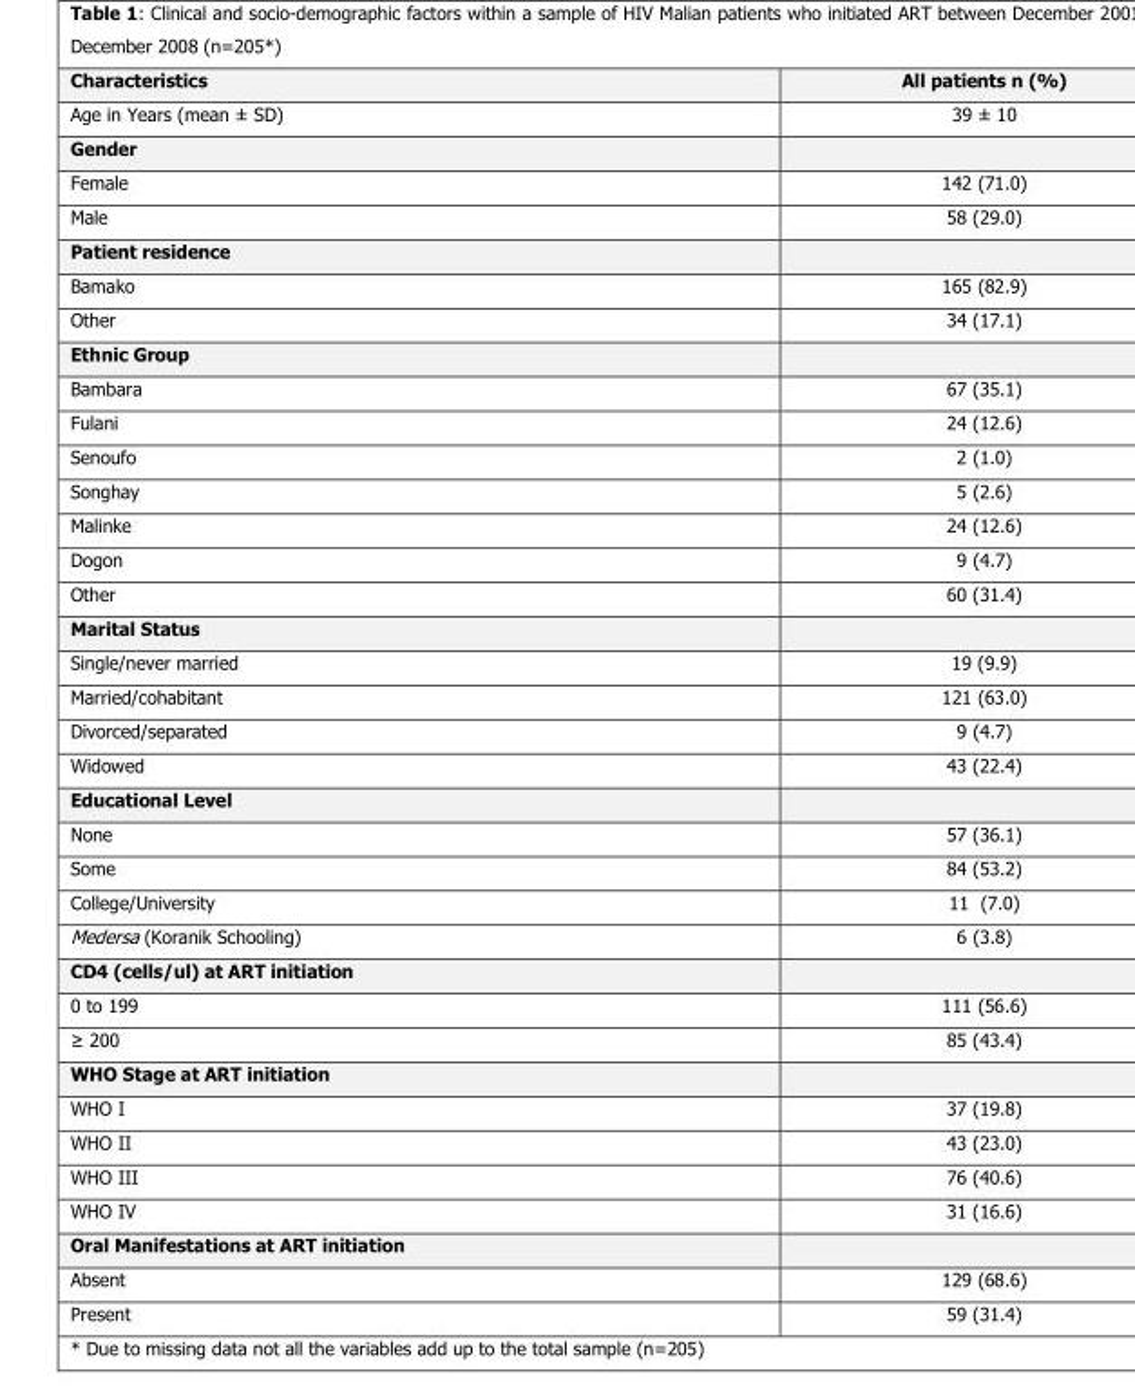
<table><thead><tr><td>Characteristics</td><td>All patients n (%)</td></tr></thead><tbody><tr><td>Age in Years (mean ± SD)</td><td>39 ± 10</td></tr><tr><td colspan="2">Gender</td></tr><tr><td>Female</td><td>142 (71.0)</td></tr><tr><td>Male</td><td>58 (29.0)</td></tr><tr><td colspan="2">Patient residence</td></tr><tr><td>Bamako</td><td>165 (82.9)</td></tr><tr><td>Other</td><td>34 (17.1)</td></tr><tr><td colspan="2">Ethnic Group</td></tr><tr><td>Bambara</td><td>67 (35.1)</td></tr><tr><td>Fulani</td><td>24 (12.6)</td></tr><tr><td>Senoufo</td><td>2 (1.0)</td></tr><tr><td>Songhay</td><td>5 (2.6)</td></tr><tr><td>Malinke</td><td>24 (12.6)</td></tr><tr><td>Dogon</td><td>9 (4.7)</td></tr><tr><td>Other</td><td>60 (31.4)</td></tr><tr><td colspan="2">Marital Status</td></tr><tr><td>Single/never married</td><td>19 (9.9)</td></tr><tr><td>Married/cohabitant</td><td>121 (63.0)</td></tr><tr><td>Divorced/separated</td><td>9 (4.7)</td></tr><tr><td>Widowed</td><td>43 (22.4)</td></tr><tr><td colspan="2">Educational Level</td></tr><tr><td>None</td><td>57 (36.1)</td></tr><tr><td>Some</td><td>84 (53.2)</td></tr><tr><td>College/University</td><td>11 (7.0)</td></tr><tr><td>Medersa (Koranik Schooling)</td><td>6 (3.8)</td></tr><tr><td colspan="2">CD4 (cells/ul) at ART initiation</td></tr><tr><td>0 to 199</td><td>111 (56.6)</td></tr><tr><td>≥ 200</td><td>85 (43.4)</td></tr><tr><td colspan="2">WHO Stage at ART initiation</td></tr><tr><td>WHO I</td><td>37 (19.8)</td></tr><tr><td>WHO II</td><td>43 (23.0)</td></tr><tr><td>WHO III</td><td>76 (40.6)</td></tr><tr><td>WHO IV</td><td>31 (16.6)</td></tr><tr><td colspan="2">Oral Manifestations at ART initiation</td></tr><tr><td>Absent</td><td>129 (68.6)</td></tr><tr><td>Present</td><td>59 (31.4)</td></tr></tbody></table>